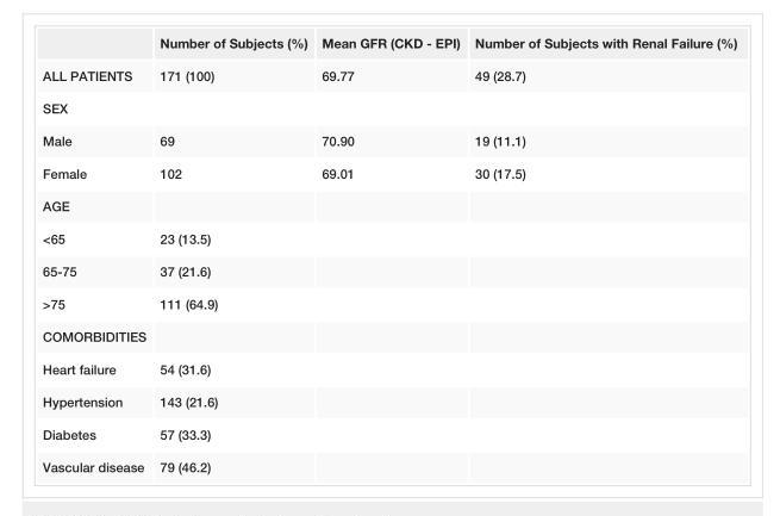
<table><thead><tr><td></td><td>Number of Subjects (%)</td><td>Mean GFR (CKD - EPI)</td><td>Number of Subjects with Renal Failure (%)</td></tr></thead><tbody><tr><td>ALL PATIENTS</td><td>171 (100)</td><td>69.77</td><td>49 (28.7)</td></tr><tr><td colspan="4">SEX</td></tr><tr><td>Male</td><td>69</td><td>70.90</td><td>19 (11.1)</td></tr><tr><td>Female</td><td>102</td><td>69.01</td><td>30 (17.5)</td></tr><tr><td colspan="4">AGE</td></tr><tr><td>&lt;65</td><td>23 (13.5)</td><td></td><td></td></tr><tr><td>65-75</td><td>37 (21.6)</td><td></td><td></td></tr><tr><td>&gt;75</td><td>111 (64.9)</td><td></td><td></td></tr><tr><td colspan="4">COMORBIDITIES</td></tr><tr><td>Heart failure</td><td>54 (31.6)</td><td></td><td></td></tr><tr><td>Hypertension</td><td>143 (21.6)</td><td></td><td></td></tr><tr><td>Diabetes</td><td>57 (33.3)</td><td></td><td></td></tr><tr><td>Vascular disease</td><td>79 (46.2)</td><td></td><td></td></tr></tbody></table>